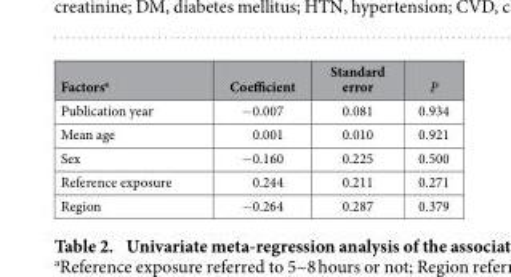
<table><thead><tr><td>Factors<sup>a</sup></td><td>Coefficient</td><td>Standard error</td><td>P</td></tr></thead><tbody><tr><td>Publication year</td><td>− 0.007</td><td>0.081</td><td>0.934</td></tr><tr><td>Mean age</td><td>0.001</td><td>0.010</td><td>0.921</td></tr><tr><td>Sex</td><td>− 0.160</td><td>0.225</td><td>0.500</td></tr><tr><td>Reference exposure</td><td>0.244</td><td>0.211</td><td>0.271</td></tr><tr><td>Region</td><td>− 0.264</td><td>0.287</td><td>0.379</td></tr></tbody></table>